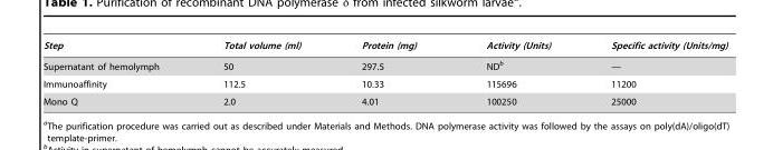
<table><thead><tr><td>Step</td><td>Total volume (ml)</td><td>Protein (mg)</td><td>Activity (Units)</td><td>Specific activity (Units/mg)</td></tr></thead><tbody><tr><td>Supernatant of hemolymph</td><td>50</td><td>297.5</td><td>ND<sup>b</sup></td><td>—</td></tr><tr><td>Immunoaffinity</td><td>112.5</td><td>10.33</td><td>115696</td><td>11200</td></tr><tr><td>Mono Q</td><td>2.0</td><td>4.01</td><td>100250</td><td>25000</td></tr></tbody></table>